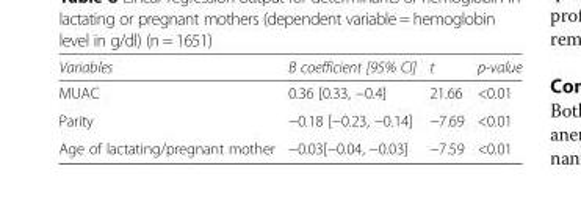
<table><thead><tr><td>Variables</td><td>B coefficient [95% CI]</td><td>t</td><td>p-value</td></tr></thead><tbody><tr><td>MUAC</td><td>0.36 [0.33, −0.4]</td><td>21.66</td><td>&lt;0.01</td></tr><tr><td>Parity</td><td>−0.18 [−0.23, −0.14]</td><td>−7.69</td><td>&lt;0.01</td></tr><tr><td>Age of lactating/pregnant mother</td><td>−0.03[−0.04, −0.03]</td><td>−7.59</td><td>&lt;0.01</td></tr></tbody></table>